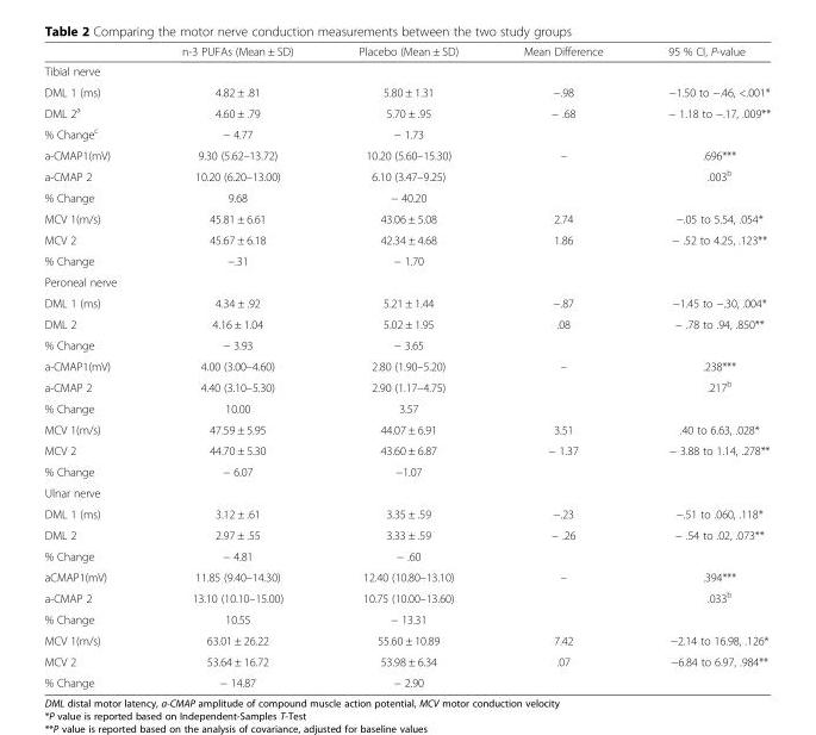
<table><thead><tr><td></td><td>n-3 PUFAs (Mean ± SD)</td><td>Placebo (Mean ± SD)</td><td>Mean Difference</td><td>95 % CI, P-value</td></tr></thead><tbody><tr><td colspan="5">Tibial nerve</td></tr><tr><td>DML 1 (ms)</td><td>4.82 ± .81</td><td>5.80 ± 1.31</td><td>−.98</td><td>−1.50 to −.46, &lt;.001*</td></tr><tr><td>DML 2<sup>a</sup></td><td>4.60 ± .79</td><td>5.70 ± .95</td><td>− .68</td><td>− 1.18 to −.17, .009**</td></tr><tr><td>% Change<sup>c</sup></td><td>− 4.77</td><td>− 1.73</td><td></td><td></td></tr><tr><td>a-CMAP1(mV)</td><td>9.30 (5.62–13.72)</td><td>10.20 (5.60–15.30)</td><td>–</td><td>.696***</td></tr><tr><td>a-CMAP 2</td><td>10.20 (6.20–13.00)</td><td>6.10 (3.47–9.25)</td><td></td><td>.003<sup>b</sup></td></tr><tr><td>% Change</td><td>9.68</td><td>− 40.20</td><td></td><td></td></tr><tr><td>MCV 1(m/s)</td><td>45.81 ± 6.61</td><td>43.06 ± 5.08</td><td>2.74</td><td>−.05 to 5.54, .054*</td></tr><tr><td>MCV 2</td><td>45.67 ± 6.18</td><td>42.34 ± 4.68</td><td>1.86</td><td>− .52 to 4.25, .123**</td></tr><tr><td>% Change</td><td>−.31</td><td>− 1.70</td><td></td><td></td></tr><tr><td colspan="5">Peroneal nerve</td></tr><tr><td>DML 1 (ms)</td><td>4.34 ± .92</td><td>5.21 ± 1.44</td><td>−.87</td><td>−1.45 to −.30, .004*</td></tr><tr><td>DML 2</td><td>4.16 ± 1.04</td><td>5.02 ± 1.95</td><td>.08</td><td>− .78 to .94, .850**</td></tr><tr><td>% Change</td><td>− 3.93</td><td>− 3.65</td><td></td><td></td></tr><tr><td>a-CMAP1(mV)</td><td>4.00 (3.00–4.60)</td><td>2.80 (1.90–5.20)</td><td>–</td><td>.238***</td></tr><tr><td>a-CMAP 2</td><td>4.40 (3.10–5.30)</td><td>2.90 (1.17–4.75)</td><td></td><td>.217<sup>b</sup></td></tr><tr><td>% Change</td><td>10.00</td><td>3.57</td><td></td><td></td></tr><tr><td>MCV 1(m/s)</td><td>47.59 ± 5.95</td><td>44.07 ± 6.91</td><td>3.51</td><td>.40 to 6.63, .028*</td></tr><tr><td>MCV 2</td><td>44.70 ± 5.30</td><td>43.60 ± 6.87</td><td>− 1.37</td><td>− 3.88 to 1.14, .278**</td></tr><tr><td>% Change</td><td>− 6.07</td><td>−1.07</td><td></td><td></td></tr><tr><td colspan="5">Ulnar nerve</td></tr><tr><td>DML 1 (ms)</td><td>3.12 ± .61</td><td>3.35 ± .59</td><td>−.23</td><td>−.51 to .060, .118*</td></tr><tr><td>DML 2</td><td>2.97 ± .55</td><td>3.33 ± .59</td><td>− .26</td><td>− .54 to .02, .073**</td></tr><tr><td>% Change</td><td>− 4.81</td><td>− .60</td><td></td><td></td></tr><tr><td>aCMAP1(mV)</td><td>11.85 (9.40–14.30)</td><td>12.40 (10.80–13.10)</td><td>–</td><td>.394***</td></tr><tr><td>a-CMAP 2</td><td>13.10 (10.10–15.00)</td><td>10.75 (10.00–13.60)</td><td></td><td>.033<sup>b</sup></td></tr><tr><td>% Change</td><td>10.55</td><td>− 13.31</td><td></td><td></td></tr><tr><td>MCV 1(m/s)</td><td>63.01 ± 26.22</td><td>55.60 ± 10.89</td><td>7.42</td><td>−2.14 to 16.98, .126*</td></tr><tr><td>MCV 2</td><td>53.64 ± 16.72</td><td>53.98 ± 6.34</td><td>.07</td><td>−6.84 to 6.97, .984**</td></tr><tr><td>% Change</td><td>− 14.87</td><td>− 2.90</td><td></td><td></td></tr></tbody></table>